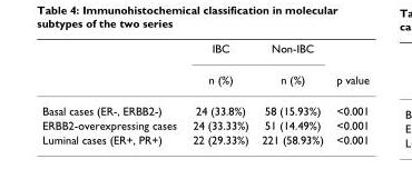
<table><thead><tr><td rowspan="2"></td><td rowspan="2">IBC n (%)</td><td rowspan="2">Non-IBC n (%)</td><td rowspan="2">p value</td></tr><tr></tr></thead><tbody><tr><td>Basal cases (ER-, ERBB2-)</td><td>24 (33.8%)</td><td>58 (15.93%)</td><td>&lt;0.001</td></tr><tr><td>ERBB2-overexpressing cases</td><td>24 (33.33%)</td><td>51 (14.49%)</td><td>&lt;0.001</td></tr><tr><td>Luminal cases (ER+, PR+)</td><td>22 (29.33%)</td><td>221 (58.93%)</td><td>&lt;0.001</td></tr></tbody></table>